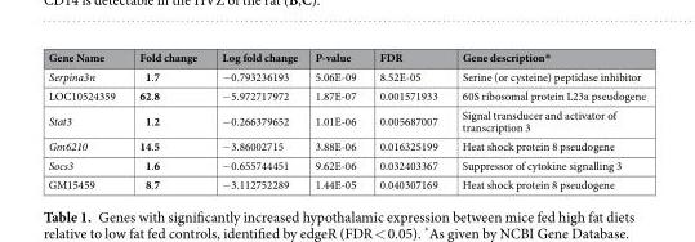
<table><thead><tr><td>Gene Name</td><td>Fold change</td><td>Log fold change</td><td>P-value</td><td>FDR</td><td>Gene description*</td></tr></thead><tbody><tr><td>Serpina3n</td><td>1.7</td><td>−0.793236193</td><td>5.06E-09</td><td>8.52E-05</td><td>Serine (or cysteine) peptidase inhibitor</td></tr><tr><td>LOC10524359</td><td>62.8</td><td>−5.972717972</td><td>1.87E-07</td><td>0.001571933</td><td>60S ribosomal protein L23a pseudogene</td></tr><tr><td>Stat3</td><td>1.2</td><td>−0.266379652</td><td>1.01E-06</td><td>0.005687007</td><td>Signal transducer and activator of transcription 3</td></tr><tr><td>Gm6210</td><td>14.5</td><td>−3.86002715</td><td>3.88E-06</td><td>0.016325199</td><td>Heat shock protein 8 pseudogene</td></tr><tr><td>Socs3</td><td>1.6</td><td>−0.655744451</td><td>9.62E-06</td><td>0.032403367</td><td>Suppressor of cytokine signalling 3</td></tr><tr><td>GM15459</td><td>8.7</td><td>−3.112752289</td><td>1.44E-05</td><td>0.040307169</td><td>Heat shock protein 8 pseudogene</td></tr></tbody></table>